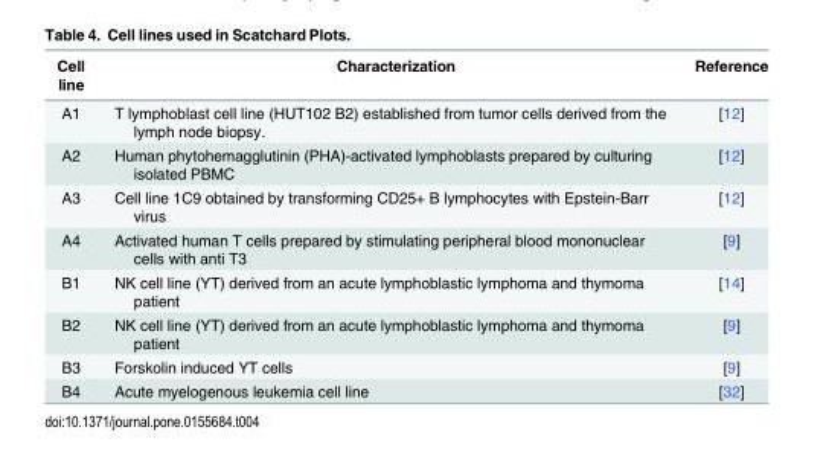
<table><thead><tr><td>Cell line</td><td>Characterization</td><td>Reference</td></tr></thead><tbody><tr><td>A1</td><td>T lymphoblast cell line (HUT102 B2) established from tumor cells derived from the lymph node biopsy.</td><td>[12]</td></tr><tr><td>A2</td><td>Human phytohemagglutinin (PHA)-activated lymphoblasts prepared by culturing isolated PBMC</td><td>[12]</td></tr><tr><td>A3</td><td>Cell line 1C9 obtained by transforming CD25+ B lymphocytes with Epstein-Barr virus</td><td>[12]</td></tr><tr><td>A4</td><td>Activated human T cells prepared by stimulating peripheral blood mononuclear cells with anti T3</td><td>[9]</td></tr><tr><td>B1</td><td>NK cell line (YT) derived from an acute lymphoblastic lymphoma and thymoma patient</td><td>[14]</td></tr><tr><td>B2</td><td>NK cell line (YT) derived from an acute lymphoblastic lymphoma and thymoma patient</td><td>[9]</td></tr><tr><td>B3</td><td>Forskolin induced YT cells</td><td>[9]</td></tr><tr><td>B4</td><td>Acute myelogenous leukemia cell line</td><td>[32]</td></tr></tbody></table>